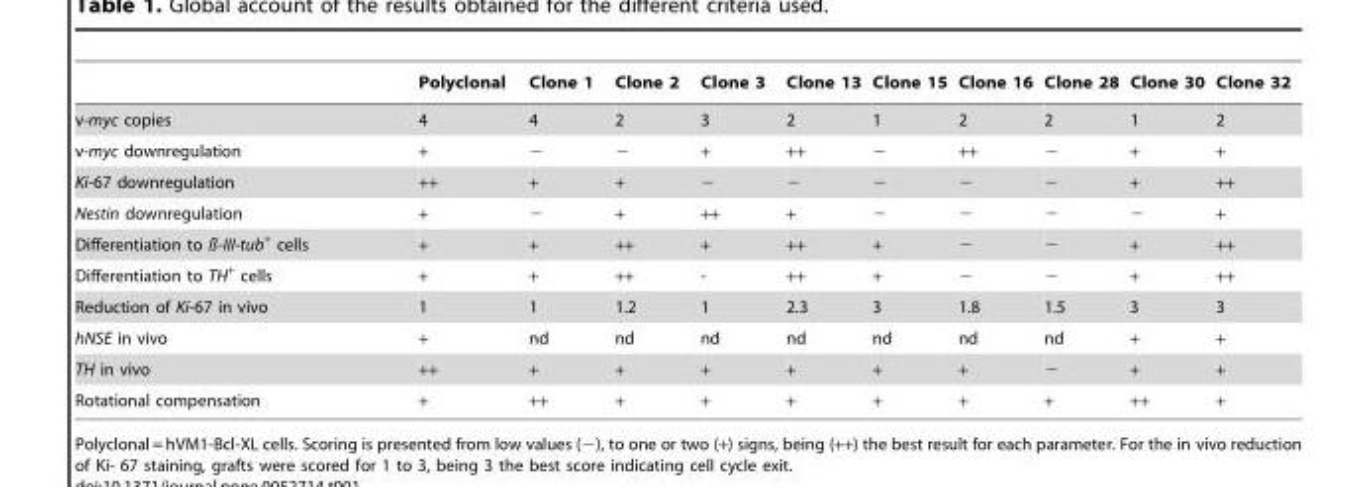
<table><thead><tr><td></td><td>Polyclonal</td><td>Clone 1</td><td>Clone 2</td><td>Clone 3</td><td>Clone 13</td><td>Clone 15</td><td>Clone 16</td><td>Clone 28</td><td>Clone 30</td><td>Clone 32</td></tr></thead><tbody><tr><td>v-myc copies</td><td>4</td><td>4</td><td>2</td><td>3</td><td>2</td><td>1</td><td>2</td><td>2</td><td>1</td><td>2</td></tr><tr><td>v-myc downregulation</td><td>+</td><td>−</td><td>−</td><td>+</td><td>++</td><td>−</td><td>++</td><td>−</td><td>+</td><td>+</td></tr><tr><td>Ki-67 downregulation</td><td>++</td><td>+</td><td>+</td><td>−</td><td>−</td><td>−</td><td>−</td><td>−</td><td>+</td><td>++</td></tr><tr><td>Nestin downregulation</td><td>+</td><td>−</td><td>+</td><td>++</td><td>+</td><td>−</td><td>−</td><td>−</td><td>−</td><td>+</td></tr><tr><td>Differentiation to ß-III-tub<sup>+</sup> cells</td><td>+</td><td>+</td><td>++</td><td>+</td><td>++</td><td>+</td><td>−</td><td>−</td><td>+</td><td>++</td></tr><tr><td>Differentiation to TH<sup>+</sup> cells</td><td>+</td><td>+</td><td>++</td><td>-</td><td>++</td><td>+</td><td>−</td><td>−</td><td>+</td><td>++</td></tr><tr><td>Reduction of Ki-67 in vivo</td><td>1</td><td>1</td><td>1.2</td><td>1</td><td>2.3</td><td>3</td><td>1.8</td><td>1.5</td><td>3</td><td>3</td></tr><tr><td>hNSE in vivo</td><td>+</td><td>nd</td><td>nd</td><td>nd</td><td>nd</td><td>nd</td><td>nd</td><td>nd</td><td>+</td><td>+</td></tr><tr><td>TH in vivo</td><td>++</td><td>+</td><td>+</td><td>+</td><td>+</td><td>+</td><td>+</td><td>−</td><td>+</td><td>+</td></tr><tr><td>Rotational compensation</td><td>+</td><td>++</td><td>+</td><td>+</td><td>+</td><td>+</td><td>+</td><td>+</td><td>++</td><td>+</td></tr></tbody></table>